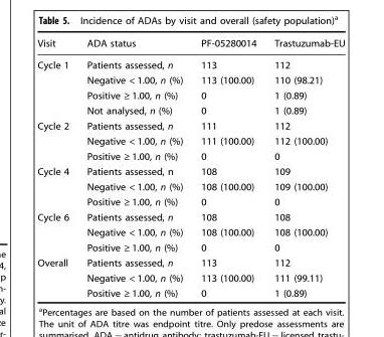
<table><thead><tr><td>Visit</td><td>ADA status</td><td>PF-05280014</td><td>Trastuzumab-EU</td></tr></thead><tbody><tr><td rowspan="4">Cycle 1</td><td>Patients assessed, n</td><td>113</td><td>112</td></tr><tr><td>Negative &lt; 1.00, n (%)</td><td>113 (100.00)</td><td>110 (98.21)</td></tr><tr><td>Positive ≥ 1.00, n (%)</td><td>0</td><td>1 (0.89)</td></tr><tr><td>Not analysed, n (%)</td><td>0</td><td>1 (0.89)</td></tr><tr><td rowspan="3">Cycle 2</td><td>Patients assessed, n</td><td>111</td><td>112</td></tr><tr><td>Negative &lt; 1.00, n (%)</td><td>111 (100.00)</td><td>112 (100.00)</td></tr><tr><td>Positive ≥ 1.00, n (%)</td><td>0</td><td>0</td></tr><tr><td rowspan="3">Cycle 4</td><td>Patients assessed, n</td><td>108</td><td>109</td></tr><tr><td>Negative &lt; 1.00, n (%)</td><td>108 (100.00)</td><td>109 (100.00)</td></tr><tr><td>Positive ≥ 1.00, n (%)</td><td>0</td><td>0</td></tr><tr><td rowspan="3">Cycle 6</td><td>Patients assessed, n</td><td>108</td><td>108</td></tr><tr><td>Negative &lt; 1.00, n (%)</td><td>108 (100.00)</td><td>108 (100.00)</td></tr><tr><td>Positive ≥ 1.00, n (%)</td><td>0</td><td>0</td></tr><tr><td rowspan="3">Overall</td><td>Patients assessed, n</td><td>113</td><td>112</td></tr><tr><td>Negative &lt; 1.00, n (%)</td><td>113 (100.00)</td><td>111 (99.11)</td></tr><tr><td>Positive ≥ 1.00, n (%)</td><td>0</td><td>1 (0.89)</td></tr></tbody></table>